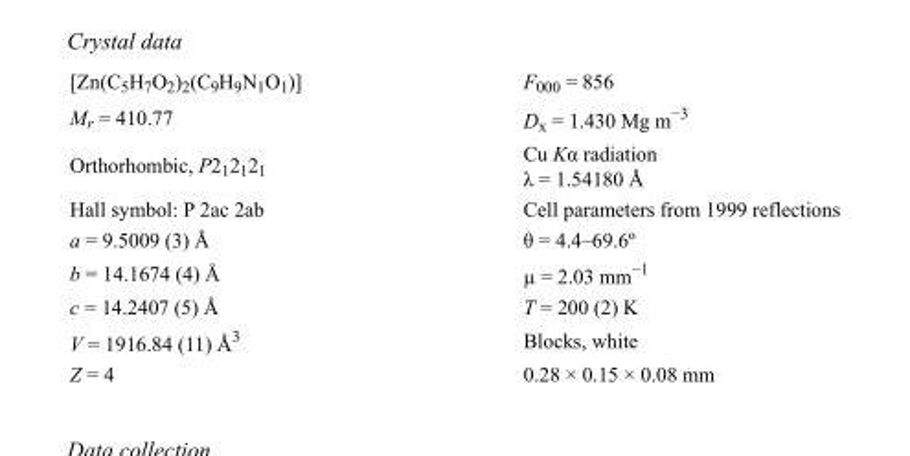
<table><tbody><tr><td>[Zn(C5H7O2)2(C9H9N1O1)]</td><td>F000 = 856</td></tr><tr><td>M<sub>r</sub> = 410.77</td><td>D<sub>x</sub> = 1.430 Mg m<sup>−3</sup></td></tr><tr><td>Orthorhombic, P2<sub>1</sub>2<sub>1</sub>2<sub>1</sub></td><td>Cu Kα radiation λ = 1.54180 Å</td></tr><tr><td>Hall symbol: P 2ac 2ab</td><td>Cell parameters from 1999 reflections</td></tr><tr><td>a = 9.5009 (3) Å</td><td>θ = 4.4–69.6º</td></tr><tr><td>b = 14.1674 (4) Å</td><td>µ = 2.03 mm<sup>−1</sup></td></tr><tr><td>c = 14.2407 (5) Å</td><td>T = 200 (2) K</td></tr><tr><td>V = 1916.84 (11) Å<sup>3</sup></td><td>Blocks, white</td></tr><tr><td>Z = 4</td><td>0.28 × 0.15 × 0.08 mm</td></tr></tbody></table>